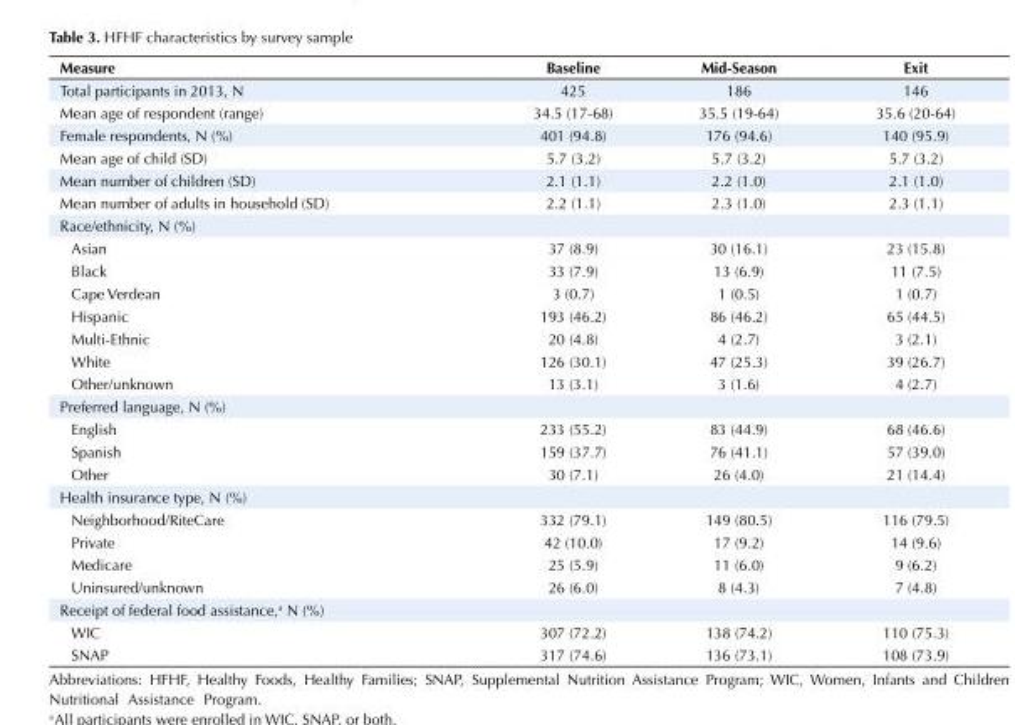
<table><tbody><tr><td>Measure</td><td>Baseline</td><td>Mid-Season</td><td>Exit</td></tr><tr><td>Total participants in 2013, N</td><td>425</td><td>186</td><td>146</td></tr><tr><td>Mean age of respondent (range)</td><td>34.5 (17-68)</td><td>35.5 (19-64)</td><td>35.6 (20-64)</td></tr><tr><td>Female respondents, N (%)</td><td>401 (94.8)</td><td>176 (94.6)</td><td>140 (95.9)</td></tr><tr><td>Mean age of child (SD)</td><td>5.7 (3.2)</td><td>5.7 (3.2)</td><td>5.7 (3.2)</td></tr><tr><td>Mean number of children (SD)</td><td>2.1 (1.1)</td><td>2.2 (1.0)</td><td>2.1 (1.0)</td></tr><tr><td>Mean number of adults in household (SD)</td><td>2.2 (1.1)</td><td>2.3 (1.0)</td><td>2.3 (1.1)</td></tr><tr><td colspan="4">Race/ethnicity, N (%)</td></tr><tr><td>Asian</td><td>37 (8.9)</td><td>30 (16.1)</td><td>23 (15.8)</td></tr><tr><td>Black</td><td>33 (7.9)</td><td>13 (6.9)</td><td>11 (7.5)</td></tr><tr><td>Cape Verdean</td><td>3 (0.7)</td><td>1 (0.5)</td><td>1 (0.7)</td></tr><tr><td>Hispanic</td><td>193 (46.2)</td><td>86 (46.2)</td><td>65 (44.5)</td></tr><tr><td>Multi-Ethnic</td><td>20 (4.8)</td><td>4 (2.7)</td><td>3 (2.1)</td></tr><tr><td>White</td><td>126 (30.1)</td><td>47 (25.3)</td><td>39 (26.7)</td></tr><tr><td>Other/unknown</td><td>13 (3.1)</td><td>3 (1.6)</td><td>4 (2.7)</td></tr><tr><td colspan="4">Preferred language, N (%)</td></tr><tr><td>English</td><td>233 (55.2)</td><td>83 (44.9)</td><td>68 (46.6)</td></tr><tr><td>Spanish</td><td>159 (37.7)</td><td>76 (41.1)</td><td>57 (39.0)</td></tr><tr><td>Other</td><td>30 (7.1)</td><td>26 (4.0)</td><td>21 (14.4)</td></tr><tr><td colspan="4">Health insurance type, N (%)</td></tr><tr><td>Neighborhood/RiteCare</td><td>332 (79.1)</td><td>149 (80.5)</td><td>116 (79.5)</td></tr><tr><td>Private</td><td>42 (10.0)</td><td>17 (9.2)</td><td>14 (9.6)</td></tr><tr><td>Medicare</td><td>25 (5.9)</td><td>11 (6.0)</td><td>9 (6.2)</td></tr><tr><td>Uninsured/unknown</td><td>26 (6.0)</td><td>8 (4.3)</td><td>7 (4.8)</td></tr><tr><td colspan="4">Receipt of federal food assistance,<sup>a</sup> N (%)</td></tr><tr><td>WIC</td><td>307 (72.2)</td><td>138 (74.2)</td><td>110 (75.3)</td></tr><tr><td>SNAP</td><td>317 (74.6)</td><td>136 (73.1)</td><td>108 (73.9)</td></tr></tbody></table>